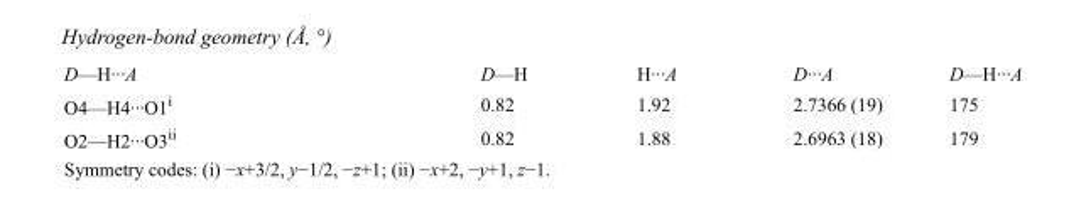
<table><tbody><tr><td>D—H···A</td><td>D—H</td><td>H···A</td><td>D···A</td><td>D—H···A</td></tr><tr><td>O4—H4···O1<sup>i</sup></td><td>0.82</td><td>1.92</td><td>2.7366 (19)</td><td>175</td></tr><tr><td>O2—H2···O3<sup>ii</sup></td><td>0.82</td><td>1.88</td><td>2.6963 (18)</td><td>179</td></tr></tbody></table>